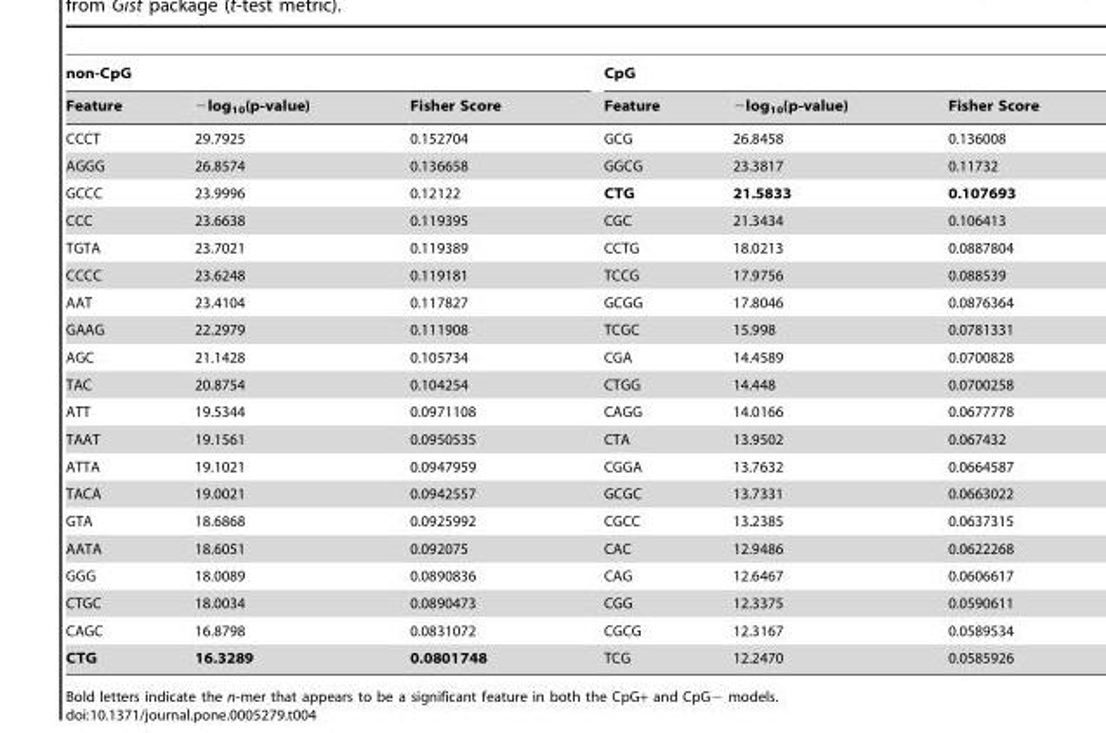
<table><thead><tr><td colspan="3">non-CpG</td><td colspan="3">CpG</td></tr><tr><td>Feature</td><td>−log<sub>10</sub>(p-value)</td><td>Fisher Score</td><td>Feature</td><td>−log<sub>10</sub>(p-value)</td><td>Fisher Score</td></tr></thead><tbody><tr><td>CCCT</td><td>29.7925</td><td>0.152704</td><td>GCG</td><td>26.8458</td><td>0.136008</td></tr><tr><td>AGGG</td><td>26.8574</td><td>0.136658</td><td>GGCG</td><td>23.3817</td><td>0.11732</td></tr><tr><td>GCCC</td><td>23.9996</td><td>0.12122</td><td>CTG</td><td>21.5833</td><td>0.107693</td></tr><tr><td>CCC</td><td>23.6638</td><td>0.119395</td><td>CGC</td><td>21.3434</td><td>0.106413</td></tr><tr><td>TGTA</td><td>23.7021</td><td>0.119389</td><td>CCTG</td><td>18.0213</td><td>0.0887804</td></tr><tr><td>CCCC</td><td>23.6248</td><td>0.119181</td><td>TCCG</td><td>17.9756</td><td>0.088539</td></tr><tr><td>AAT</td><td>23.4104</td><td>0.117827</td><td>GCGG</td><td>17.8046</td><td>0.0876364</td></tr><tr><td>GAAG</td><td>22.2979</td><td>0.111908</td><td>TCGC</td><td>15.998</td><td>0.0781331</td></tr><tr><td>AGC</td><td>21.1428</td><td>0.105734</td><td>CGA</td><td>14.4589</td><td>0.0700828</td></tr><tr><td>TAC</td><td>20.8754</td><td>0.104254</td><td>CTGG</td><td>14.448</td><td>0.0700258</td></tr><tr><td>ATT</td><td>19.5344</td><td>0.0971108</td><td>CAGG</td><td>14.0166</td><td>0.0677778</td></tr><tr><td>TAAT</td><td>19.1561</td><td>0.0950535</td><td>CTA</td><td>13.9502</td><td>0.067432</td></tr><tr><td>ATTA</td><td>19.1021</td><td>0.0947959</td><td>CGGA</td><td>13.7632</td><td>0.0664587</td></tr><tr><td>TACA</td><td>19.0021</td><td>0.0942557</td><td>GCGC</td><td>13.7331</td><td>0.0663022</td></tr><tr><td>GTA</td><td>18.6868</td><td>0.0925992</td><td>CGCC</td><td>13.2385</td><td>0.0637315</td></tr><tr><td>AATA</td><td>18.6051</td><td>0.092075</td><td>CAC</td><td>12.9486</td><td>0.0622268</td></tr><tr><td>GGG</td><td>18.0089</td><td>0.0890836</td><td>CAG</td><td>12.6467</td><td>0.0606617</td></tr><tr><td>CTGC</td><td>18.0034</td><td>0.0890473</td><td>CGG</td><td>12.3375</td><td>0.0590611</td></tr><tr><td>CAGC</td><td>16.8798</td><td>0.0831072</td><td>CGCG</td><td>12.3167</td><td>0.0589534</td></tr><tr><td>CTG</td><td>16.3289</td><td>0.0801748</td><td>TCG</td><td>12.2470</td><td>0.0585926</td></tr></tbody></table>